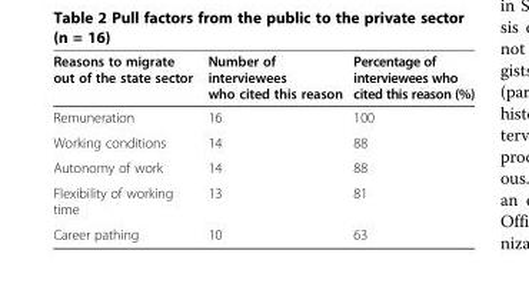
<table><thead><tr><td>Reasons to migrate out of the state sector</td><td>Number of interviewees who cited this reason</td><td>Percentage of interviewees who cited this reason (%)</td></tr></thead><tbody><tr><td>Remuneration</td><td>16</td><td>100</td></tr><tr><td>Working conditions</td><td>14</td><td>88</td></tr><tr><td>Autonomy of work</td><td>14</td><td>88</td></tr><tr><td>Flexibility of working time</td><td>13</td><td>81</td></tr><tr><td>Career pathing</td><td>10</td><td>63</td></tr></tbody></table>